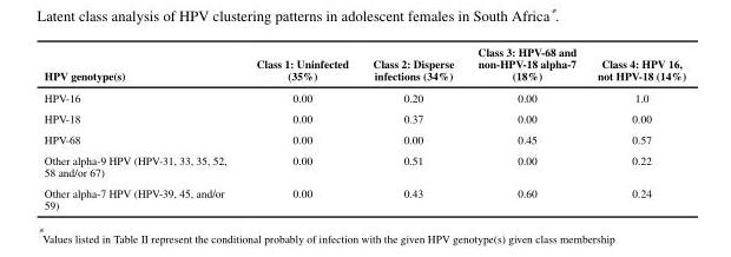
<table><thead><tr><td>HPV genotype(s)</td><td>Class 1: Uninfected (35%)</td><td>Class 2: Disperse infections (34%)</td><td>Class 3: HPV-68 and non-HPV-18 alpha-7 (18%)</td><td>Class 4: HPV 16, not HPV-18 (14%)</td></tr></thead><tbody><tr><td>HPV-16</td><td>0.00</td><td>0.20</td><td>0.00</td><td>1.0</td></tr><tr><td>HPV-18</td><td>0.00</td><td>0.37</td><td>0.00</td><td>0.00</td></tr><tr><td>HPV-68</td><td>0.00</td><td>0.00</td><td>0.45</td><td>0.57</td></tr><tr><td>Other alpha-9 HPV (HPV-31, 33, 35, 52, 58 and/or 67)</td><td>0.00</td><td>0.51</td><td>0.00</td><td>0.22</td></tr><tr><td>Other alpha-7 HPV (HPV-39, 45, and/or 59)</td><td>0.00</td><td>0.43</td><td>0.60</td><td>0.24</td></tr></tbody></table>